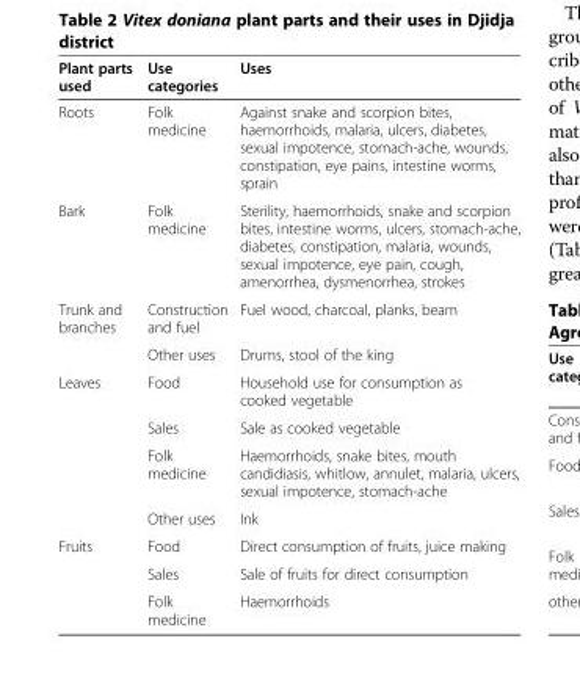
<table><thead><tr><td>Plant parts used</td><td>Use categories</td><td>Uses</td></tr></thead><tbody><tr><td>Roots</td><td>Folk medicine</td><td>Against snake and scorpion bites, haemorrhoids, malaria, ulcers, diabetes, sexual impotence, stomach-ache, wounds, constipation, eye pains, intestine worms, sprain</td></tr><tr><td>Bark</td><td>Folk medicine</td><td>Sterility, haemorrhoids, snake and scorpion bites, intestine worms, ulcers, stomach-ache, diabetes, constipation, malaria, wounds, sexual impotence, eye pain, cough, amenorrhea, dysmenorrhea, strokes</td></tr><tr><td rowspan="2">Trunk and branches</td><td>Construction and fuel</td><td>Fuel wood, charcoal, planks, beam</td></tr><tr><td>Other uses</td><td>Drums, stool of the king</td></tr><tr><td rowspan="4">Leaves</td><td>Food</td><td>Household use for consumption as cooked vegetable</td></tr><tr><td>Sales</td><td>Sale as cooked vegetable</td></tr><tr><td>Folk medicine</td><td>Haemorrhoids, snake bites, mouth candidiasis, whitlow, annulet, malaria, ulcers, sexual impotence, stomach-ache</td></tr><tr><td>Other uses</td><td>Ink</td></tr><tr><td rowspan="3">Fruits</td><td>Food</td><td>Direct consumption of fruits, juice making</td></tr><tr><td>Sales</td><td>Sale of fruits for direct consumption</td></tr><tr><td>Folk medicine</td><td>Haemorrhoids</td></tr></tbody></table>